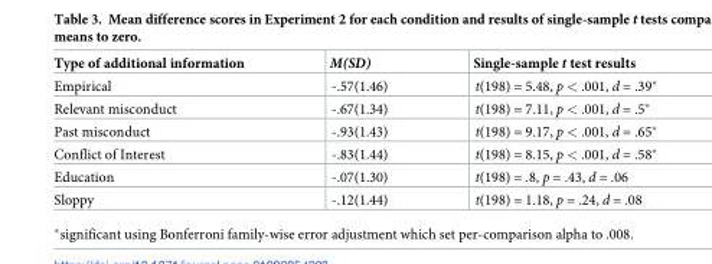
<table><thead><tr><td>Type of additional information</td><td>M(SD)</td><td>Single-sample t test results</td></tr></thead><tbody><tr><td>Empirical</td><td>-.57(1.46)</td><td>t(198) = 5.48, p &lt; .001, d = .39*</td></tr><tr><td>Relevant misconduct</td><td>-.67(1.34)</td><td>t(198) = 7.11, p &lt; .001, d = .5*</td></tr><tr><td>Past misconduct</td><td>-.93(1.43)</td><td>t(198) = 9.17, p &lt; .001, d = .65*</td></tr><tr><td>Conflict of Interest</td><td>-.83(1.44)</td><td>t(198) = 8.15, p &lt; .001, d = .58*</td></tr><tr><td>Education</td><td>-.07(1.30)</td><td>t(198) = .8, p = .43, d = .06</td></tr><tr><td>Sloppy</td><td>-.12(1.44)</td><td>t(198) = 1.18, p = .24, d = .08</td></tr></tbody></table>